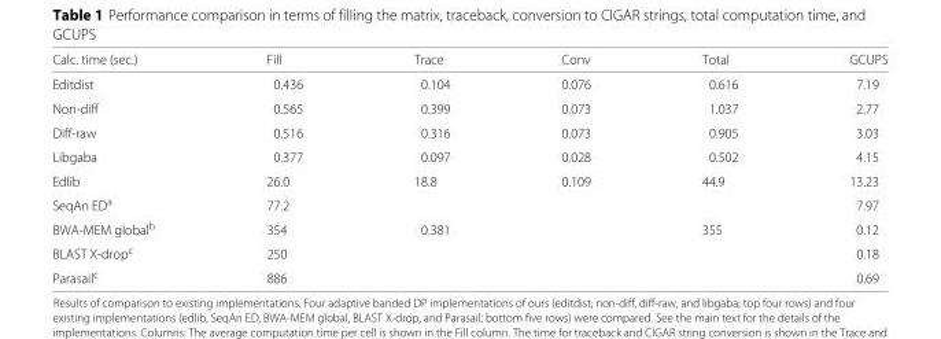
<table><thead><tr><td>Calc. time (sec.)</td><td>Fill</td><td>Trace</td><td>Conv</td><td>Total</td><td>GCUPS</td></tr></thead><tbody><tr><td>Editdist</td><td>0.436</td><td>0.104</td><td>0.076</td><td>0.616</td><td>7.19</td></tr><tr><td>Non-diff</td><td>0.565</td><td>0.399</td><td>0.073</td><td>1.037</td><td>2.77</td></tr><tr><td>Diff-raw</td><td>0.516</td><td>0.316</td><td>0.073</td><td>0.905</td><td>3.03</td></tr><tr><td>Libgaba</td><td>0.377</td><td>0.097</td><td>0.028</td><td>0.502</td><td>4.15</td></tr><tr><td>Edlib</td><td>26.0</td><td>18.8</td><td>0.109</td><td>44.9</td><td>13.23</td></tr><tr><td>SeqAn ED<sup>a</sup></td><td>77.2</td><td></td><td></td><td></td><td>7.97</td></tr><tr><td>BWA-MEM global<sup>b</sup></td><td>354</td><td>0.381</td><td></td><td>355</td><td>0.12</td></tr><tr><td>BLAST X-drop<sup>c</sup></td><td>250</td><td></td><td></td><td></td><td>0.18</td></tr><tr><td>Parasail<sup>c</sup></td><td>886</td><td></td><td></td><td></td><td>0.69</td></tr></tbody></table>